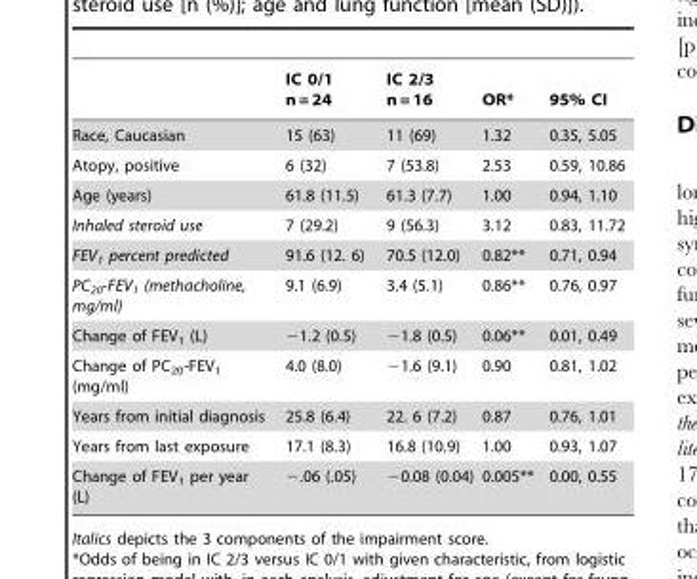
<table><thead><tr><td></td><td>IC 0/1 n = 24</td><td>IC 2/3 n = 16</td><td>OR*</td><td>95% CI</td></tr></thead><tbody><tr><td>Race, Caucasian</td><td>15 (63)</td><td>11 (69)</td><td>1.32</td><td>0.35, 5.05</td></tr><tr><td>Atopy, positive</td><td>6 (32)</td><td>7 (53.8)</td><td>2.53</td><td>0.59, 10.86</td></tr><tr><td>Age (years)</td><td>61.8 (11.5)</td><td>61.3 (7.7)</td><td>1.00</td><td>0.94, 1.10</td></tr><tr><td>Inhaled steroid use</td><td>7 (29.2)</td><td>9 (56.3)</td><td>3.12</td><td>0.83, 11.72</td></tr><tr><td>FEV<sub>1</sub> percent predicted</td><td>91.6 (12. 6)</td><td>70.5 (12.0)</td><td>0.82**</td><td>0.71, 0.94</td></tr><tr><td>PC<sub>20</sub>-FEV<sub>1</sub> (methacholine, mg/ml)</td><td>9.1 (6.9)</td><td>3.4 (5.1)</td><td>0.86**</td><td>0.76, 0.97</td></tr><tr><td>Change of FEV<sub>1</sub> (L)</td><td>−1.2 (0.5)</td><td>−1.8 (0.5)</td><td>0.06**</td><td>0.01, 0.49</td></tr><tr><td>Change of PC<sub>20</sub>-FEV<sub>1</sub> (mg/ml)</td><td>4.0 (8.0)</td><td>−1.6 (9.1)</td><td>0.90</td><td>0.81, 1.02</td></tr><tr><td>Years from initial diagnosis</td><td>25.8 (6.4)</td><td>22. 6 (7.2)</td><td>0.87</td><td>0.76, 1.01</td></tr><tr><td>Years from last exposure</td><td>17.1 (8.3)</td><td>16.8 (10.9)</td><td>1.00</td><td>0.93, 1.07</td></tr><tr><td>Change of FEV<sub>1</sub> per year (L)</td><td>−.06 (.05)</td><td>−0.08 (0.04)</td><td>0.005**</td><td>0.00, 0.55</td></tr></tbody></table>